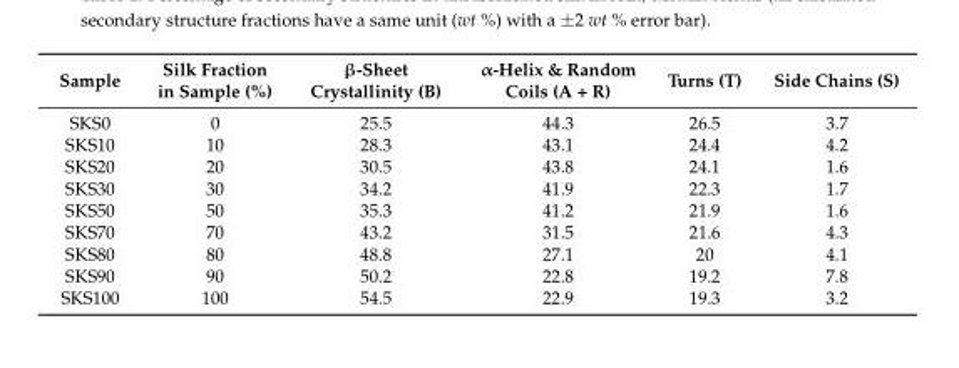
<table><thead><tr><td>Sample</td><td>Silk Fraction in Sample (%)</td><td>β-Sheet Crystallinity (B)</td><td>α-Helix &amp; Random Coils (A + R)</td><td>Turns (T)</td><td>Side Chains (S)</td></tr></thead><tbody><tr><td>SKS0</td><td>0</td><td>25.5</td><td>44.3</td><td>26.5</td><td>3.7</td></tr><tr><td>SKS10</td><td>10</td><td>28.3</td><td>43.1</td><td>24.4</td><td>4.2</td></tr><tr><td>SKS20</td><td>20</td><td>30.5</td><td>43.8</td><td>24.1</td><td>1.6</td></tr><tr><td>SKS30</td><td>30</td><td>34.2</td><td>41.9</td><td>22.3</td><td>1.7</td></tr><tr><td>SKS50</td><td>50</td><td>35.3</td><td>41.2</td><td>21.9</td><td>1.6</td></tr><tr><td>SKS70</td><td>70</td><td>43.2</td><td>31.5</td><td>21.6</td><td>4.3</td></tr><tr><td>SKS80</td><td>80</td><td>48.8</td><td>27.1</td><td>20</td><td>4.1</td></tr><tr><td>SKS90</td><td>90</td><td>50.2</td><td>22.8</td><td>19.2</td><td>7.8</td></tr><tr><td>SKS100</td><td>100</td><td>54.5</td><td>22.9</td><td>19.3</td><td>3.2</td></tr></tbody></table>